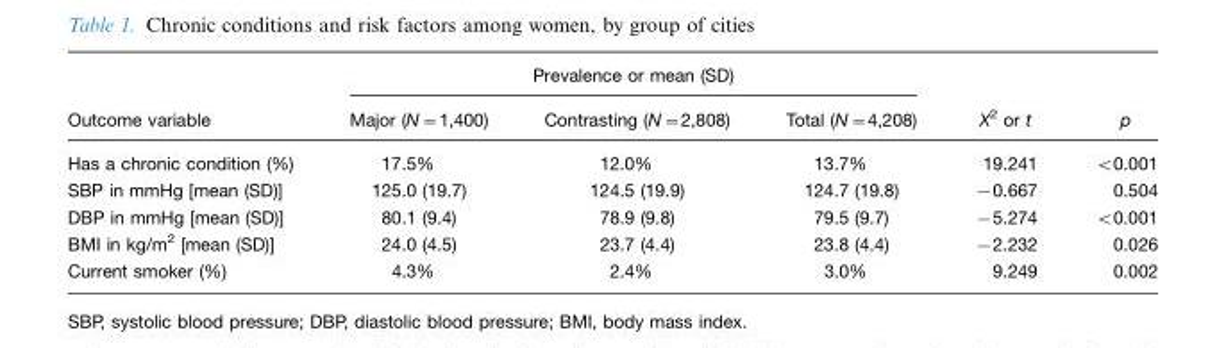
<table><thead><tr><td rowspan="2">Outcome variable</td><td colspan="3">Prevalence or mean (SD)</td><td rowspan="2">X<sup>2</sup> or t</td><td rowspan="2">p</td></tr><tr><td>Major (N=1,400)</td><td>Contrasting (N=2,808)</td><td>Total (N=4,208)</td></tr></thead><tbody><tr><td>Has a chronic condition (%)</td><td>17.5%</td><td>12.0%</td><td>13.7%</td><td>19.241</td><td>&lt;0.001</td></tr><tr><td>SBP in mmHg [mean (SD)]</td><td>125.0 (19.7)</td><td>124.5 (19.9)</td><td>124.7 (19.8)</td><td>−0.667</td><td>0.504</td></tr><tr><td>DBP in mmHg [mean (SD)]</td><td>80.1 (9.4)</td><td>78.9 (9.8)</td><td>79.5 (9.7)</td><td>−5.274</td><td>&lt;0.001</td></tr><tr><td>BMI in kg/m<sup>2</sup> [mean (SD)]</td><td>24.0 (4.5)</td><td>23.7 (4.4)</td><td>23.8 (4.4)</td><td>−2.232</td><td>0.026</td></tr><tr><td>Current smoker (%)</td><td>4.3%</td><td>2.4%</td><td>3.0%</td><td>9.249</td><td>0.002</td></tr></tbody></table>